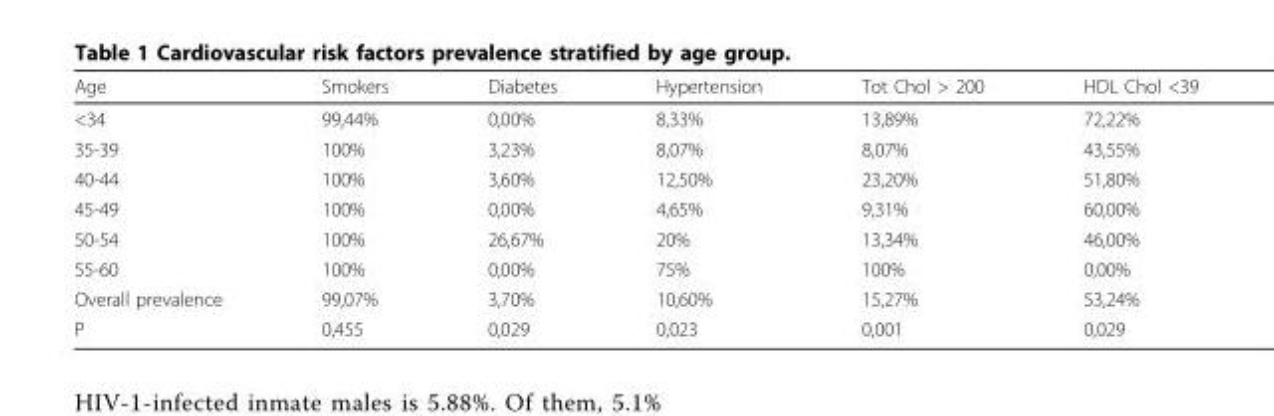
<table><thead><tr><td>Age</td><td>Smokers</td><td>Diabetes</td><td>Hypertension</td><td>Tot Chol &gt; 200</td><td>HDL Chol &lt;39</td></tr></thead><tbody><tr><td>&lt;34</td><td>99,44%</td><td>0,00%</td><td>8,33%</td><td>13,89%</td><td>72,22%</td></tr><tr><td>35-39</td><td>100%</td><td>3,23%</td><td>8,07%</td><td>8,07%</td><td>43,55%</td></tr><tr><td>40-44</td><td>100%</td><td>3,60%</td><td>12,50%</td><td>23,20%</td><td>51,80%</td></tr><tr><td>45-49</td><td>100%</td><td>0,00%</td><td>4,65%</td><td>9,31%</td><td>60,00%</td></tr><tr><td>50-54</td><td>100%</td><td>26,67%</td><td>20%</td><td>13,34%</td><td>46,00%</td></tr><tr><td>55-60</td><td>100%</td><td>0,00%</td><td>75%</td><td>100%</td><td>0,00%</td></tr><tr><td>Overall prevalence</td><td>99,07%</td><td>3,70%</td><td>10,60%</td><td>15,27%</td><td>53,24%</td></tr><tr><td>P</td><td>0,455</td><td>0,029</td><td>0,023</td><td>0,001</td><td>0,029</td></tr></tbody></table>